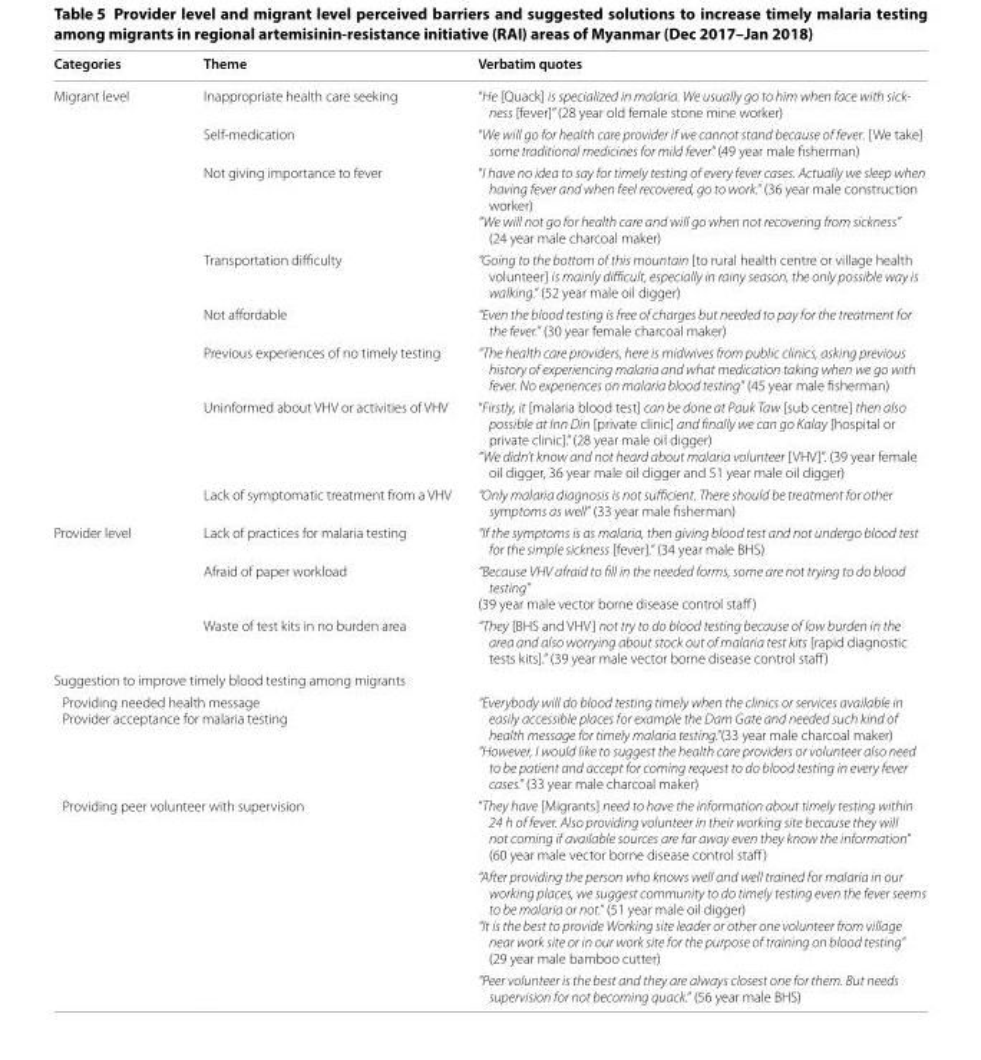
<table><thead><tr><td>Categories</td><td>Theme</td><td>Verbatim quotes</td></tr></thead><tbody><tr><td rowspan="8">Migrant level</td><td>Inappropriate health care seeking</td><td>“He [Quack] is specialized in malaria. We usually go to him when face with sick- ness [fever]” (28 year old female stone mine worker)</td></tr><tr><td>Self-medication</td><td>“We will go for health care provider if we cannot stand because of fever. [We take] some traditional medicines for mild fever” (49 year male fisherman)</td></tr><tr><td>Not giving importance to fever</td><td>“I have no idea to say for timely testing of every fever cases. Actually we sleep when having fever and when feel recovered, go to work.” (36 year male construction worker) “We will not go for health care and will go when not recovering from sickness” (24 year male charcoal maker)</td></tr><tr><td>Transportation difficulty</td><td>“Going to the bottom of this mountain [to rural health centre or village health volunteer] is mainly difficult, especially in rainy season, the only possible way is walking.” (52 year male oil digger)</td></tr><tr><td>Not affordable</td><td>“Even the blood testing is free of charges but needed to pay for the treatment for the fever.” (30 year female charcoal maker)</td></tr><tr><td>Previous experiences of no timely testing</td><td>“The health care providers, here is midwives from public clinics, asking previous history of experiencing malaria and what medication taking when we go with fever. No experiences on malaria blood testing” (45 year male fisherman)</td></tr><tr><td>Uninformed about VHV or activities of VHV</td><td>“Firstly, it [malaria blood test] can be done at Pauk Taw [sub centre] then also possible at Inn Din [private clinic] and finally we can go Kalay [hospital or private clinic].” (28 year male oil digger) “We didn’t know and not heard about malaria volunteer [VHV]”. (39 year female oil digger, 36 year male oil digger and 51 year male oil digger)</td></tr><tr><td>Lack of symptomatic treatment from a VHV</td><td>“Only malaria diagnosis is not sufficient. There should be treatment for other symptoms as well” (33 year male fisherman)</td></tr><tr><td rowspan="3">Provider level</td><td>Lack of practices for malaria testing</td><td>“If the symptoms is as malaria, then giving blood test and not undergo blood test for the simple sickness [fever].” (34 year male BHS)</td></tr><tr><td>Afraid of paper workload</td><td>“Because VHV afraid to fill in the needed forms, some are not trying to do blood testing” (39 year male vector borne disease control staff)</td></tr><tr><td>Waste of test kits in no burden area</td><td>“They [BHS and VHV] not try to do blood testing because of low burden in the area and also worrying about stock out of malaria test kits [rapid diagnostic tests kits].” (39 year male vector borne disease control staff)</td></tr><tr><td colspan="3">Suggestion to improve timely blood testing among migrants</td></tr><tr><td colspan="2">Providing needed health message Provider acceptance for malaria testing</td><td>“Everybody will do blood testing timely when the clinics or services available in easily accessible places for example the Dam Gate and needed such kind of health message for timely malaria testing.”(33 year male charcoal maker) “However, I would like to suggest the health care providers or volunteer also need to be patient and accept for coming request to do blood testing in every fever cases.” (33 year male charcoal maker)</td></tr><tr><td rowspan="3" colspan="2">Providing peer volunteer with supervision</td><td>“They have [Migrants] need to have the information about timely testing within 24 h of fever. Also providing volunteer in their working site because they will not coming if available sources are far away even they know the information” (60 year male vector borne disease control staff)</td></tr><tr><td>“After providing the person who knows well and well trained for malaria in our working places, we suggest community to do timely testing even the fever seems to be malaria or not.” (51 year male oil digger) “It is the best to provide Working site leader or other one volunteer from village near work site or in our work site for the purpose of training on blood testing” (29 year male bamboo cutter)</td></tr><tr><td>“Peer volunteer is the best and they are always closest one for them. But needs supervision for not becoming quack.” (56 year male BHS)</td></tr></tbody></table>